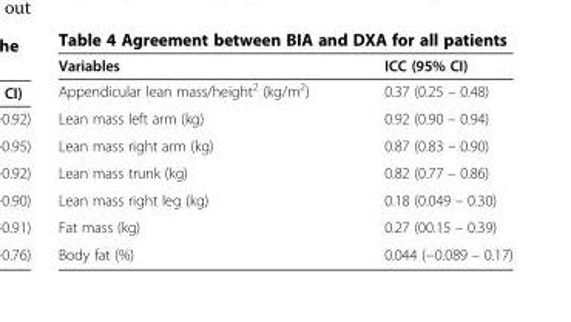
<table><thead><tr><td>Variables</td><td>ICC (95% CI)</td></tr></thead><tbody><tr><td>Appendicular lean mass/height<sup>2</sup> (kg/m<sup>2</sup>)</td><td>0.37 (0.25 – 0.48)</td></tr><tr><td>Lean mass left arm (kg)</td><td>0.92 (0.90 – 0.94)</td></tr><tr><td>Lean mass right arm (kg)</td><td>0.87 (0.83 – 0.90)</td></tr><tr><td>Lean mass trunk (kg)</td><td>0.82 (0.77 – 0.86)</td></tr><tr><td>Lean mass right leg (kg)</td><td>0.18 (0.049 – 0.30)</td></tr><tr><td>Fat mass (kg)</td><td>0.27 (00.15 – 0.39)</td></tr><tr><td>Body fat (%)</td><td>0.044 (−0.089 – 0.17)</td></tr></tbody></table>